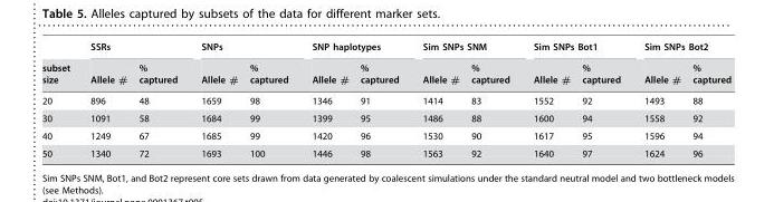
<table><thead><tr><td rowspan="2">subset size</td><td colspan="2">SSRs</td><td colspan="2">SNPs</td><td colspan="2">SNP haplotypes</td><td colspan="2">Sim SNPs SNM</td><td colspan="2">Sim SNPs Bot1</td><td colspan="2">Sim SNPs Bot2</td></tr><tr><td>Allele #</td><td>% captured</td><td>Allele #</td><td>% captured</td><td>Allele #</td><td>% captured</td><td>Allele #</td><td>% captured</td><td>Allele #</td><td>% captured</td><td>Allele #</td><td>% captured</td></tr></thead><tbody><tr><td>20</td><td>896</td><td>48</td><td>1659</td><td>98</td><td>1346</td><td>91</td><td>1414</td><td>83</td><td>1552</td><td>92</td><td>1493</td><td>88</td></tr><tr><td>30</td><td>1091</td><td>58</td><td>1684</td><td>99</td><td>1399</td><td>95</td><td>1486</td><td>88</td><td>1600</td><td>94</td><td>1558</td><td>92</td></tr><tr><td>40</td><td>1249</td><td>67</td><td>1685</td><td>99</td><td>1420</td><td>96</td><td>1530</td><td>90</td><td>1617</td><td>95</td><td>1596</td><td>94</td></tr><tr><td>50</td><td>1340</td><td>72</td><td>1693</td><td>100</td><td>1446</td><td>98</td><td>1563</td><td>92</td><td>1640</td><td>97</td><td>1624</td><td>96</td></tr></tbody></table>